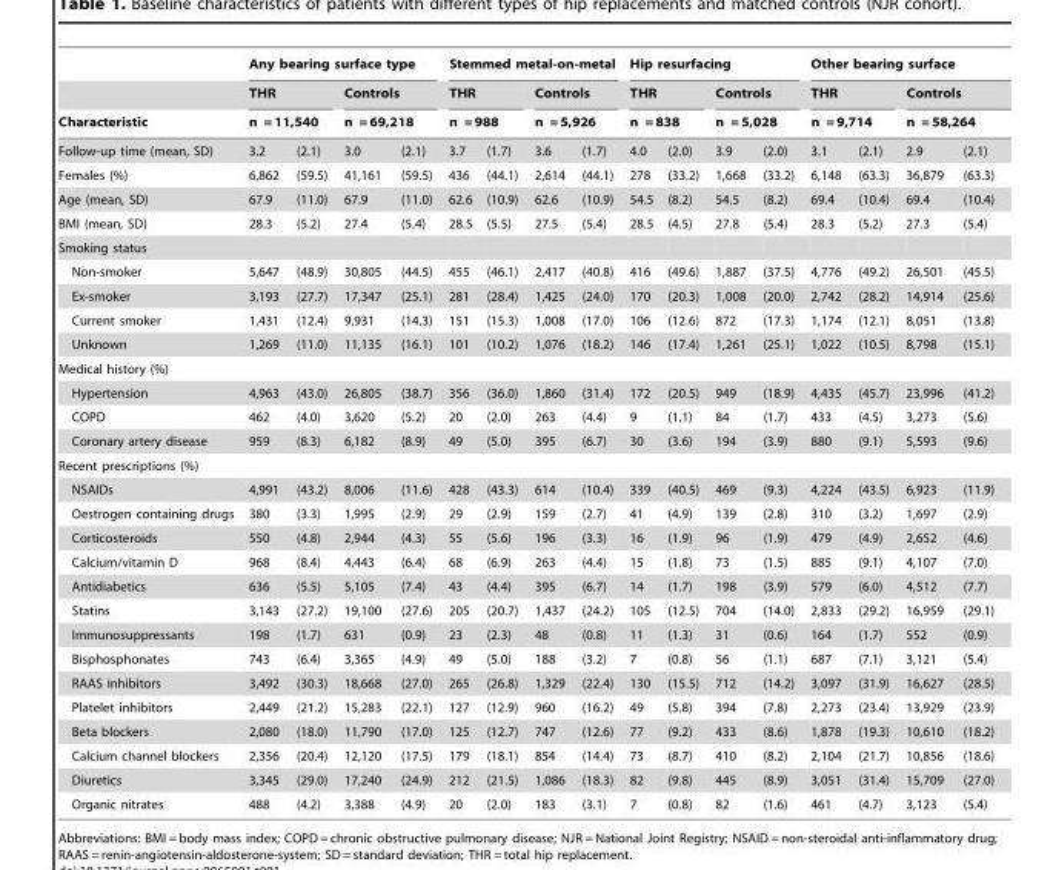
<table><thead><tr><td rowspan="4">Characteristic Follow-up time (mean, SD)</td><td colspan="4">Any bearing surface type</td><td colspan="4">Stemmed metal-on-metal</td><td colspan="4">Hip resurfacing</td><td colspan="4">Other bearing surface</td></tr><tr><td rowspan="2" colspan="2">THR n = 11,540</td><td rowspan="2" colspan="2">Controls n = 69,218</td><td rowspan="2" colspan="2">THR n = 988</td><td rowspan="2" colspan="2">Controls n = 5,926</td><td rowspan="2" colspan="2">THR n = 838</td><td rowspan="2" colspan="2">Controls n = 5,028</td><td rowspan="2" colspan="2">THR n = 9,714</td><td rowspan="2" colspan="2">Controls n = 58,264</td></tr><tr></tr><tr><td>3.2</td><td>(2.1)</td><td>3.0</td><td>(2.1)</td><td>3.7</td><td>(1.7)</td><td>3.6</td><td>(1.7)</td><td>4.0</td><td>(2.0)</td><td>3.9</td><td>(2.0)</td><td>3.1</td><td>(2.1)</td><td>2.9</td><td>(2.1)</td></tr></thead><tbody><tr><td>Females (%)</td><td>6,862</td><td>(59.5)</td><td>41,161</td><td>(59.5)</td><td>436</td><td>(44.1)</td><td>2,614</td><td>(44.1)</td><td>278</td><td>(33.2)</td><td>1,668</td><td>(33.2)</td><td>6,148</td><td>(63.3)</td><td>36,879</td><td>(63.3)</td></tr><tr><td>Age (mean, SD)</td><td>67.9</td><td>(11.0)</td><td>67.9</td><td>(11.0)</td><td>62.6</td><td>(10.9)</td><td>62.6</td><td>(10.9)</td><td>54.5</td><td>(8.2)</td><td>54.5</td><td>(8.2)</td><td>69.4</td><td>(10.4)</td><td>69.4</td><td>(10.4)</td></tr><tr><td>BMI (mean, SD)</td><td>28.3</td><td>(5.2)</td><td>27.4</td><td>(5.4)</td><td>28.5</td><td>(5.5)</td><td>27.5</td><td>(5.4)</td><td>28.5</td><td>(4.5)</td><td>27.8</td><td>(5.4)</td><td>28.3</td><td>(5.2)</td><td>27.3</td><td>(5.4)</td></tr><tr><td colspan="17">Smoking status</td></tr><tr><td>Non-smoker</td><td>5,647</td><td>(48.9)</td><td>30,805</td><td>(44.5)</td><td>455</td><td>(46.1)</td><td>2,417</td><td>(40.8)</td><td>416</td><td>(49.6)</td><td>1,887</td><td>(37.5)</td><td>4,776</td><td>(49.2)</td><td>26,501</td><td>(45.5)</td></tr><tr><td>Ex-smoker</td><td>3,193</td><td>(27.7)</td><td>17,347</td><td>(25.1)</td><td>281</td><td>(28.4)</td><td>1,425</td><td>(24.0)</td><td>170</td><td>(20.3)</td><td>1,008</td><td>(20.0)</td><td>2,742</td><td>(28.2)</td><td>14,914</td><td>(25.6)</td></tr><tr><td>Current smoker</td><td>1,431</td><td>(12.4)</td><td>9,931</td><td>(14.3)</td><td>151</td><td>(15.3)</td><td>1,008</td><td>(17.0)</td><td>106</td><td>(12.6)</td><td>872</td><td>(17.3)</td><td>1,174</td><td>(12.1)</td><td>8,051</td><td>(13.8)</td></tr><tr><td>Unknown</td><td>1,269</td><td>(11.0)</td><td>11,135</td><td>(16.1)</td><td>101</td><td>(10.2)</td><td>1,076</td><td>(18.2)</td><td>146</td><td>(17.4)</td><td>1,261</td><td>(25.1)</td><td>1,022</td><td>(10.5)</td><td>8,798</td><td>(15.1)</td></tr><tr><td colspan="17">Medical history (%)</td></tr><tr><td>Hypertension</td><td>4,963</td><td>(43.0)</td><td>26,805</td><td>(38.7)</td><td>356</td><td>(36.0)</td><td>1,860</td><td>(31.4)</td><td>172</td><td>(20.5)</td><td>949</td><td>(18.9)</td><td>4,435</td><td>(45.7)</td><td>23,996</td><td>(41.2)</td></tr><tr><td>COPD</td><td>462</td><td>(4.0)</td><td>3,620</td><td>(5.2)</td><td>20</td><td>(2.0)</td><td>263</td><td>(4.4)</td><td>9</td><td>(1.1)</td><td>84</td><td>(1.7)</td><td>433</td><td>(4.5)</td><td>3,273</td><td>(5.6)</td></tr><tr><td>Coronary artery disease</td><td>959</td><td>(8.3)</td><td>6,182</td><td>(8.9)</td><td>49</td><td>(5.0)</td><td>395</td><td>(6.7)</td><td>30</td><td>(3.6)</td><td>194</td><td>(3.9)</td><td>880</td><td>(9.1)</td><td>5,593</td><td>(9.6)</td></tr><tr><td colspan="17">Recent prescriptions (%)</td></tr><tr><td>NSAIDs</td><td>4,991</td><td>(43.2)</td><td>8,006</td><td>(11.6)</td><td>428</td><td>(43.3)</td><td>614</td><td>(10.4)</td><td>339</td><td>(40.5)</td><td>469</td><td>(9.3)</td><td>4,224</td><td>(43.5)</td><td>6,923</td><td>(11.9)</td></tr><tr><td>Oestrogen containing drugs</td><td>380</td><td>(3.3)</td><td>1,995</td><td>(2.9)</td><td>29</td><td>(2.9)</td><td>159</td><td>(2.7)</td><td>41</td><td>(4.9)</td><td>139</td><td>(2.8)</td><td>310</td><td>(3.2)</td><td>1,697</td><td>(2.9)</td></tr><tr><td>Corticosteroids</td><td>550</td><td>(4.8)</td><td>2,944</td><td>(4.3)</td><td>55</td><td>(5.6)</td><td>196</td><td>(3.3)</td><td>16</td><td>(1.9)</td><td>96</td><td>(1.9)</td><td>479</td><td>(4.9)</td><td>2,652</td><td>(4.6)</td></tr><tr><td>Calcium/vitamin D</td><td>968</td><td>(8.4)</td><td>4,443</td><td>(6.4)</td><td>68</td><td>(6.9)</td><td>263</td><td>(4.4)</td><td>15</td><td>(1.8)</td><td>73</td><td>(1.5)</td><td>885</td><td>(9.1)</td><td>4,107</td><td>(7.0)</td></tr><tr><td>Antidiabetics</td><td>636</td><td>(5.5)</td><td>5,105</td><td>(7.4)</td><td>43</td><td>(4.4)</td><td>395</td><td>(6.7)</td><td>14</td><td>(1.7)</td><td>198</td><td>(3.9)</td><td>579</td><td>(6.0)</td><td>4,512</td><td>(7.7)</td></tr><tr><td>Statins</td><td>3,143</td><td>(27.2)</td><td>19,100</td><td>(27.6)</td><td>205</td><td>(20.7)</td><td>1,437</td><td>(24.2)</td><td>105</td><td>(12.5)</td><td>704</td><td>(14.0)</td><td>2,833</td><td>(29.2)</td><td>16,959</td><td>(29.1)</td></tr><tr><td>Immunosuppressants</td><td>198</td><td>(1.7)</td><td>631</td><td>(0.9)</td><td>23</td><td>(2.3)</td><td>48</td><td>(0.8)</td><td>11</td><td>(1.3)</td><td>31</td><td>(0.6)</td><td>164</td><td>(1.7)</td><td>552</td><td>(0.9)</td></tr><tr><td>Bisphosphonates</td><td>743</td><td>(6.4)</td><td>3,365</td><td>(4.9)</td><td>49</td><td>(5.0)</td><td>188</td><td>(3.2)</td><td>7</td><td>(0.8)</td><td>56</td><td>(1.1)</td><td>687</td><td>(7.1)</td><td>3,121</td><td>(5.4)</td></tr><tr><td>RAAS inhibitors</td><td>3,492</td><td>(30.3)</td><td>18,668</td><td>(27.0)</td><td>265</td><td>(26.8)</td><td>1,329</td><td>(22.4)</td><td>130</td><td>(15.5)</td><td>712</td><td>(14.2)</td><td>3,097</td><td>(31.9)</td><td>16,627</td><td>(28.5)</td></tr><tr><td>Platelet inhibitors</td><td>2,449</td><td>(21.2)</td><td>15,283</td><td>(22.1)</td><td>127</td><td>(12.9)</td><td>960</td><td>(16.2)</td><td>49</td><td>(5.8)</td><td>394</td><td>(7.8)</td><td>2,273</td><td>(23.4)</td><td>13,929</td><td>(23.9)</td></tr><tr><td>Beta blockers</td><td>2,080</td><td>(18.0)</td><td>11,790</td><td>(17.0)</td><td>125</td><td>(12.7)</td><td>747</td><td>(12.6)</td><td>77</td><td>(9.2)</td><td>433</td><td>(8.6)</td><td>1,878</td><td>(19.3)</td><td>10,610</td><td>(18.2)</td></tr><tr><td>Calcium channel blockers</td><td>2,356</td><td>(20.4)</td><td>12,120</td><td>(17.5)</td><td>179</td><td>(18.1)</td><td>854</td><td>(14.4)</td><td>73</td><td>(8.7)</td><td>410</td><td>(8.2)</td><td>2,104</td><td>(21.7)</td><td>10,856</td><td>(18.6)</td></tr><tr><td>Diuretics</td><td>3,345</td><td>(29.0)</td><td>17,240</td><td>(24.9)</td><td>212</td><td>(21.5)</td><td>1,086</td><td>(18.3)</td><td>82</td><td>(9.8)</td><td>445</td><td>(8.9)</td><td>3,051</td><td>(31.4)</td><td>15,709</td><td>(27.0)</td></tr><tr><td>Organic nitrates</td><td>488</td><td>(4.2)</td><td>3,388</td><td>(4.9)</td><td>20</td><td>(2.0)</td><td>183</td><td>(3.1)</td><td>7</td><td>(0.8)</td><td>82</td><td>(1.6)</td><td>461</td><td>(4.7)</td><td>3,123</td><td>(5.4)</td></tr></tbody></table>